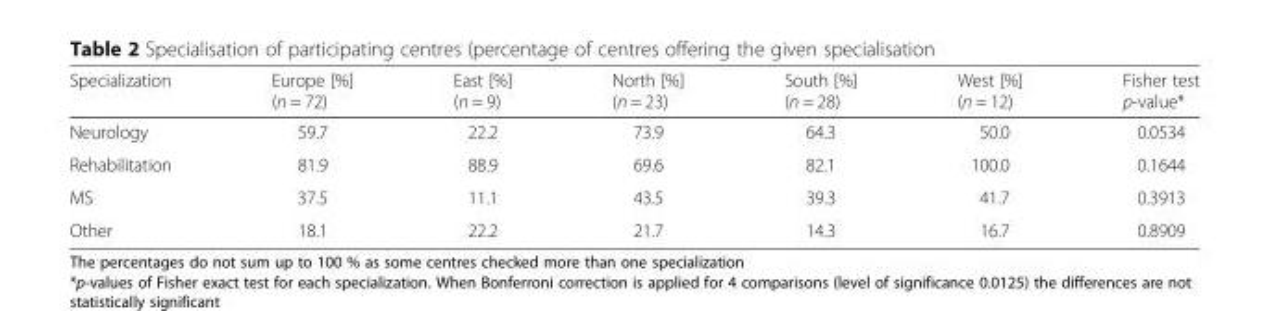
<table><thead><tr><td>Specialization</td><td>Europe [%] (n = 72)</td><td>East [%] (n = 9)</td><td>North [%] (n = 23)</td><td>South [%] (n = 28)</td><td>West [%] (n = 12)</td><td>Fisher test p-value*</td></tr></thead><tbody><tr><td>Neurology</td><td>59.7</td><td>22.2</td><td>73.9</td><td>64.3</td><td>50.0</td><td>0.0534</td></tr><tr><td>Rehabilitation</td><td>81.9</td><td>88.9</td><td>69.6</td><td>82.1</td><td>100.0</td><td>0.1644</td></tr><tr><td>MS</td><td>37.5</td><td>11.1</td><td>43.5</td><td>39.3</td><td>41.7</td><td>0.3913</td></tr><tr><td>Other</td><td>18.1</td><td>22.2</td><td>21.7</td><td>14.3</td><td>16.7</td><td>0.8909</td></tr></tbody></table>